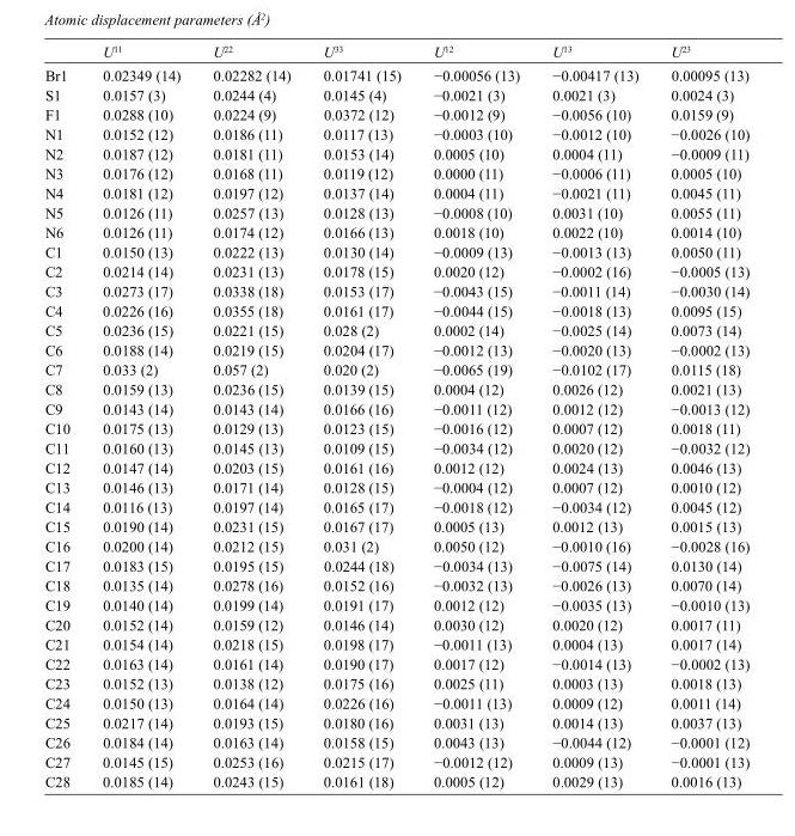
<table><thead><tr><td></td><td>U<sup>11</sup></td><td>U<sup>22</sup></td><td>U<sup>33</sup></td><td>U<sup>12</sup></td><td>U<sup>13</sup></td><td>U<sup>23</sup></td></tr></thead><tbody><tr><td>Br1</td><td>0.02349 (14)</td><td>0.02282 (14)</td><td>0.01741 (15)</td><td>−0.00056 (13)</td><td>−0.00417 (13)</td><td>0.00095 (13)</td></tr><tr><td>S1</td><td>0.0157 (3)</td><td>0.0244 (4)</td><td>0.0145 (4)</td><td>−0.0021 (3)</td><td>0.0021 (3)</td><td>0.0024 (3)</td></tr><tr><td>F1</td><td>0.0288 (10)</td><td>0.0224 (9)</td><td>0.0372 (12)</td><td>−0.0012 (9)</td><td>−0.0056 (10)</td><td>0.0159 (9)</td></tr><tr><td>N1</td><td>0.0152 (12)</td><td>0.0186 (11)</td><td>0.0117 (13)</td><td>−0.0003 (10)</td><td>−0.0012 (10)</td><td>−0.0026 (10)</td></tr><tr><td>N2</td><td>0.0187 (12)</td><td>0.0181 (11)</td><td>0.0153 (14)</td><td>0.0005 (10)</td><td>0.0004 (11)</td><td>−0.0009 (11)</td></tr><tr><td>N3</td><td>0.0176 (12)</td><td>0.0168 (11)</td><td>0.0119 (12)</td><td>0.0000 (11)</td><td>−0.0006 (11)</td><td>0.0005 (10)</td></tr><tr><td>N4</td><td>0.0181 (12)</td><td>0.0197 (12)</td><td>0.0137 (14)</td><td>0.0004 (11)</td><td>−0.0021 (11)</td><td>0.0045 (11)</td></tr><tr><td>N5</td><td>0.0126 (11)</td><td>0.0257 (13)</td><td>0.0128 (13)</td><td>−0.0008 (10)</td><td>0.0031 (10)</td><td>0.0055 (11)</td></tr><tr><td>N6</td><td>0.0126 (11)</td><td>0.0174 (12)</td><td>0.0166 (13)</td><td>0.0018 (10)</td><td>0.0022 (10)</td><td>0.0014 (10)</td></tr><tr><td>C1</td><td>0.0150 (13)</td><td>0.0222 (13)</td><td>0.0130 (14)</td><td>−0.0009 (13)</td><td>−0.0013 (13)</td><td>0.0050 (11)</td></tr><tr><td>C2</td><td>0.0214 (14)</td><td>0.0231 (13)</td><td>0.0178 (15)</td><td>0.0020 (12)</td><td>−0.0002 (16)</td><td>−0.0005 (13)</td></tr><tr><td>C3</td><td>0.0273 (17)</td><td>0.0338 (18)</td><td>0.0153 (17)</td><td>−0.0043 (15)</td><td>−0.0011 (14)</td><td>−0.0030 (14)</td></tr><tr><td>C4</td><td>0.0226 (16)</td><td>0.0355 (18)</td><td>0.0161 (17)</td><td>−0.0044 (15)</td><td>−0.0018 (13)</td><td>0.0095 (15)</td></tr><tr><td>C5</td><td>0.0236 (15)</td><td>0.0221 (15)</td><td>0.028 (2)</td><td>0.0002 (14)</td><td>−0.0025 (14)</td><td>0.0073 (14)</td></tr><tr><td>C6</td><td>0.0188 (14)</td><td>0.0219 (15)</td><td>0.0204 (17)</td><td>−0.0012 (13)</td><td>−0.0020 (13)</td><td>−0.0002 (13)</td></tr><tr><td>C7</td><td>0.033 (2)</td><td>0.057 (2)</td><td>0.020 (2)</td><td>−0.0065 (19)</td><td>−0.0102 (17)</td><td>0.0115 (18)</td></tr><tr><td>C8</td><td>0.0159 (13)</td><td>0.0236 (15)</td><td>0.0139 (15)</td><td>0.0004 (12)</td><td>0.0026 (12)</td><td>0.0021 (13)</td></tr><tr><td>C9</td><td>0.0143 (14)</td><td>0.0143 (14)</td><td>0.0166 (16)</td><td>−0.0011 (12)</td><td>0.0012 (12)</td><td>−0.0013 (12)</td></tr><tr><td>C10</td><td>0.0175 (13)</td><td>0.0129 (13)</td><td>0.0123 (15)</td><td>−0.0016 (12)</td><td>0.0007 (12)</td><td>0.0018 (11)</td></tr><tr><td>C11</td><td>0.0160 (13)</td><td>0.0145 (13)</td><td>0.0109 (15)</td><td>−0.0034 (12)</td><td>0.0020 (12)</td><td>−0.0032 (12)</td></tr><tr><td>C12</td><td>0.0147 (14)</td><td>0.0203 (15)</td><td>0.0161 (16)</td><td>0.0012 (12)</td><td>0.0024 (13)</td><td>0.0046 (13)</td></tr><tr><td>C13</td><td>0.0146 (13)</td><td>0.0171 (14)</td><td>0.0128 (15)</td><td>−0.0004 (12)</td><td>0.0007 (12)</td><td>0.0010 (12)</td></tr><tr><td>C14</td><td>0.0116 (13)</td><td>0.0197 (14)</td><td>0.0165 (17)</td><td>−0.0018 (12)</td><td>−0.0034 (12)</td><td>0.0045 (12)</td></tr><tr><td>C15</td><td>0.0190 (14)</td><td>0.0231 (15)</td><td>0.0167 (17)</td><td>0.0005 (13)</td><td>0.0012 (13)</td><td>0.0015 (13)</td></tr><tr><td>C16</td><td>0.0200 (14)</td><td>0.0212 (15)</td><td>0.031 (2)</td><td>0.0050 (12)</td><td>−0.0010 (16)</td><td>−0.0028 (16)</td></tr><tr><td>C17</td><td>0.0183 (15)</td><td>0.0195 (15)</td><td>0.0244 (18)</td><td>−0.0034 (13)</td><td>−0.0075 (14)</td><td>0.0130 (14)</td></tr><tr><td>C18</td><td>0.0135 (14)</td><td>0.0278 (16)</td><td>0.0152 (16)</td><td>−0.0032 (13)</td><td>−0.0026 (13)</td><td>0.0070 (14)</td></tr><tr><td>C19</td><td>0.0140 (14)</td><td>0.0199 (14)</td><td>0.0191 (17)</td><td>0.0012 (12)</td><td>−0.0035 (13)</td><td>−0.0010 (13)</td></tr><tr><td>C20</td><td>0.0152 (14)</td><td>0.0159 (12)</td><td>0.0146 (14)</td><td>0.0030 (12)</td><td>0.0020 (12)</td><td>0.0017 (11)</td></tr><tr><td>C21</td><td>0.0154 (14)</td><td>0.0218 (15)</td><td>0.0198 (17)</td><td>−0.0011 (13)</td><td>0.0004 (13)</td><td>0.0017 (14)</td></tr><tr><td>C22</td><td>0.0163 (14)</td><td>0.0161 (14)</td><td>0.0190 (17)</td><td>0.0017 (12)</td><td>−0.0014 (13)</td><td>−0.0002 (13)</td></tr><tr><td>C23</td><td>0.0152 (13)</td><td>0.0138 (12)</td><td>0.0175 (16)</td><td>0.0025 (11)</td><td>0.0003 (13)</td><td>0.0018 (13)</td></tr><tr><td>C24</td><td>0.0150 (13)</td><td>0.0164 (14)</td><td>0.0226 (16)</td><td>−0.0011 (13)</td><td>0.0009 (12)</td><td>0.0011 (14)</td></tr><tr><td>C25</td><td>0.0217 (14)</td><td>0.0193 (15)</td><td>0.0180 (16)</td><td>0.0031 (13)</td><td>0.0014 (13)</td><td>0.0037 (13)</td></tr><tr><td>C26</td><td>0.0184 (14)</td><td>0.0163 (14)</td><td>0.0158 (15)</td><td>0.0043 (13)</td><td>−0.0044 (12)</td><td>−0.0001 (12)</td></tr><tr><td>C27</td><td>0.0145 (15)</td><td>0.0253 (16)</td><td>0.0215 (17)</td><td>−0.0012 (12)</td><td>0.0009 (13)</td><td>−0.0001 (13)</td></tr><tr><td>C28</td><td>0.0185 (14)</td><td>0.0243 (15)</td><td>0.0161 (18)</td><td>0.0005 (12)</td><td>0.0029 (13)</td><td>0.0016 (13)</td></tr></tbody></table>